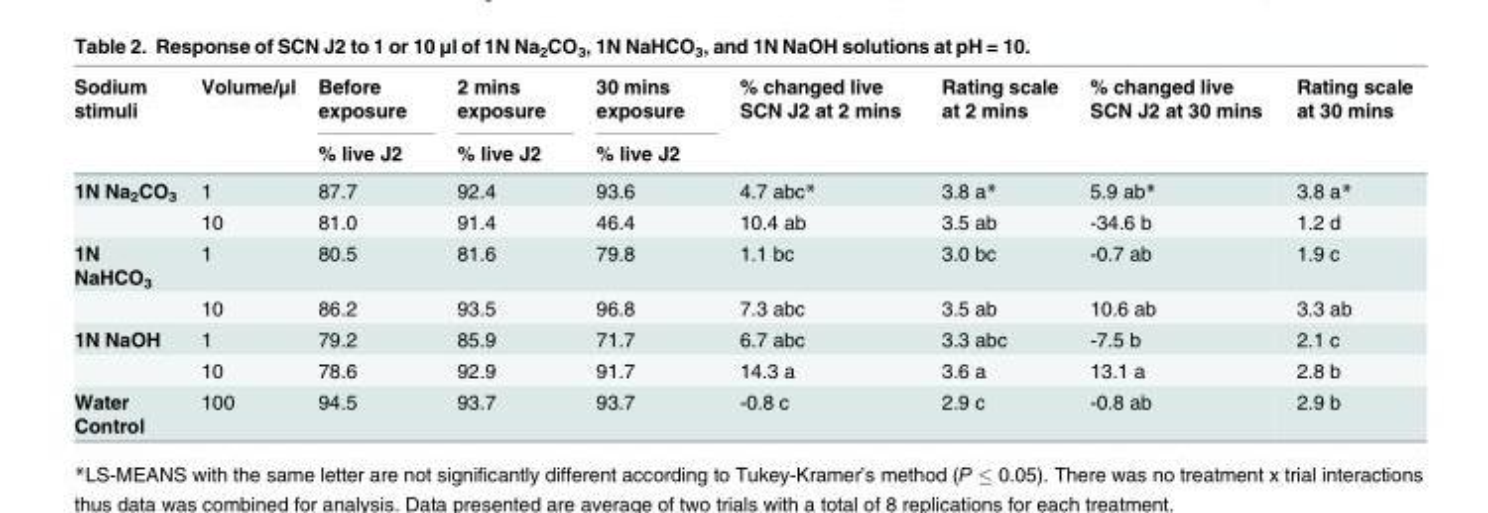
<table><thead><tr><td rowspan="2">Sodium stimuli</td><td rowspan="2">Volume/μl</td><td rowspan="2">Before exposure % live J2</td><td rowspan="2">2 mins exposure % live J2</td><td rowspan="2">30 mins exposure % live J2</td><td rowspan="2">% changed live SCN J2 at 2 mins</td><td rowspan="2">Rating scale at 2 mins</td><td rowspan="2">% changed live SCN J2 at 30 mins</td><td rowspan="2">Rating scale at 30 mins</td></tr><tr></tr></thead><tbody><tr><td rowspan="2">1N Na<sub>2</sub>CO<sub>3</sub></td><td>1</td><td>87.7</td><td>92.4</td><td>93.6</td><td>4.7 abc*</td><td>3.8 a*</td><td>5.9 ab*</td><td>3.8 a*</td></tr><tr><td>10</td><td>81.0</td><td>91.4</td><td>46.4</td><td>10.4 ab</td><td>3.5 ab</td><td>-34.6 b</td><td>1.2 d</td></tr><tr><td rowspan="2">1N NaHCO<sub>3</sub></td><td>1</td><td>80.5</td><td>81.6</td><td>79.8</td><td>1.1 bc</td><td>3.0 bc</td><td>-0.7 ab</td><td>1.9 c</td></tr><tr><td>10</td><td>86.2</td><td>93.5</td><td>96.8</td><td>7.3 abc</td><td>3.5 ab</td><td>10.6 ab</td><td>3.3 ab</td></tr><tr><td rowspan="2">1N NaOH</td><td>1</td><td>79.2</td><td>85.9</td><td>71.7</td><td>6.7 abc</td><td>3.3 abc</td><td>-7.5 b</td><td>2.1 c</td></tr><tr><td>10</td><td>78.6</td><td>92.9</td><td>91.7</td><td>14.3 a</td><td>3.6 a</td><td>13.1 a</td><td>2.8 b</td></tr><tr><td>Water Control</td><td>100</td><td>94.5</td><td>93.7</td><td>93.7</td><td>-0.8 c</td><td>2.9 c</td><td>-0.8 ab</td><td>2.9 b</td></tr></tbody></table>